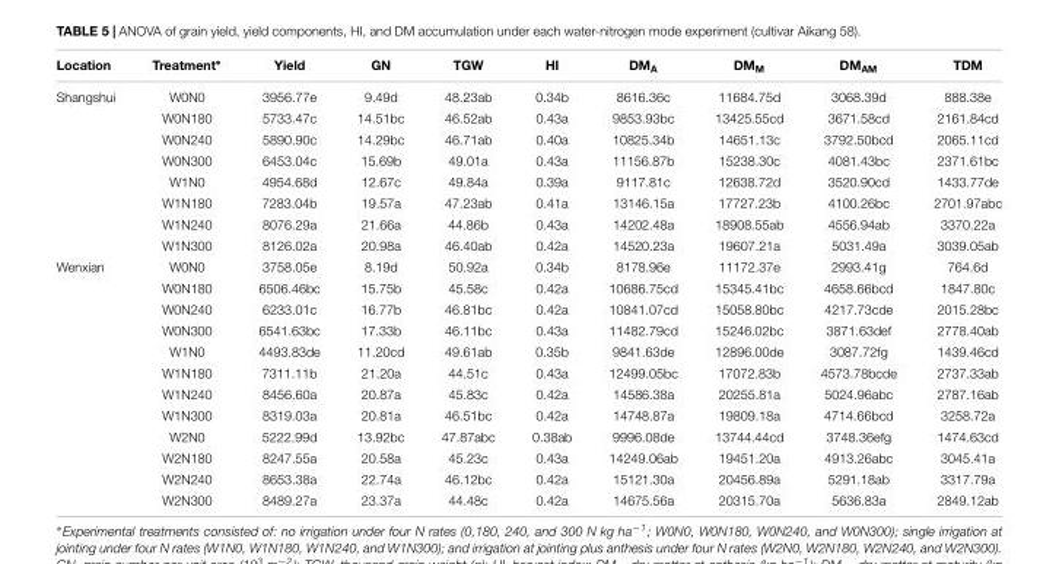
<table><thead><tr><td>Location</td><td>Treatment∗</td><td>Yield</td><td>GN</td><td>TGW</td><td>HI</td><td>DM<sub>A</sub></td><td>DM<sub>M</sub></td><td>DM<sub>AM</sub></td><td>TDM</td></tr></thead><tbody><tr><td rowspan="8">Shangshui</td><td>W0N0</td><td>3956.77e</td><td>9.49d</td><td>48.23ab</td><td>0.34b</td><td>8616.36c</td><td>11684.75d</td><td>3068.39d</td><td>888.38e</td></tr><tr><td>W0N180</td><td>5733.47c</td><td>14.51bc</td><td>46.52ab</td><td>0.43a</td><td>9853.93bc</td><td>13425.55cd</td><td>3671.58cd</td><td>2161.84cd</td></tr><tr><td>W0N240</td><td>5890.90c</td><td>14.29bc</td><td>46.71ab</td><td>0.40a</td><td>10825.34b</td><td>14651.13c</td><td>3792.50bcd</td><td>2065.11cd</td></tr><tr><td>W0N300</td><td>6453.04c</td><td>15.69b</td><td>49.01a</td><td>0.43a</td><td>11156.87b</td><td>15238.30c</td><td>4081.43bc</td><td>2371.61bc</td></tr><tr><td>W1N0</td><td>4954.68d</td><td>12.67c</td><td>49.84a</td><td>0.39a</td><td>9117.81c</td><td>12638.72d</td><td>3520.90cd</td><td>1433.77de</td></tr><tr><td>W1N180</td><td>7283.04b</td><td>19.57a</td><td>47.23ab</td><td>0.41a</td><td>13146.15a</td><td>17727.23b</td><td>4100.26bc</td><td>2701.97abc</td></tr><tr><td>W1N240</td><td>8076.29a</td><td>21.66a</td><td>44.86b</td><td>0.43a</td><td>14202.48a</td><td>18908.55ab</td><td>4556.94ab</td><td>3370.22a</td></tr><tr><td>W1N300</td><td>8126.02a</td><td>20.98a</td><td>46.40ab</td><td>0.42a</td><td>14520.23a</td><td>19607.21a</td><td>5031.49a</td><td>3039.05ab</td></tr><tr><td rowspan="12">Wenxian</td><td>W0N0</td><td>3758.05e</td><td>8.19d</td><td>50.92a</td><td>0.34b</td><td>8178.96e</td><td>11172.37e</td><td>2993.41g</td><td>764.6d</td></tr><tr><td>W0N180</td><td>6506.46bc</td><td>15.75b</td><td>45.58c</td><td>0.42a</td><td>10686.75cd</td><td>15345.41bc</td><td>4658.66bcd</td><td>1847.80c</td></tr><tr><td>W0N240</td><td>6233.01c</td><td>16.77b</td><td>46.81bc</td><td>0.42a</td><td>10841.07cd</td><td>15058.80bc</td><td>4217.73cde</td><td>2015.28bc</td></tr><tr><td>W0N300</td><td>6541.63bc</td><td>17.33b</td><td>46.11bc</td><td>0.43a</td><td>11482.79cd</td><td>15246.02bc</td><td>3871.63def</td><td>2778.40ab</td></tr><tr><td>W1N0</td><td>4493.83de</td><td>11.20cd</td><td>49.61ab</td><td>0.35b</td><td>9841.63de</td><td>12896.00de</td><td>3087.72fg</td><td>1439.46cd</td></tr><tr><td>W1N180</td><td>7311.11b</td><td>21.20a</td><td>44.51c</td><td>0.43a</td><td>12499.05bc</td><td>17072.83b</td><td>4573.78bcde</td><td>2737.33ab</td></tr><tr><td>W1N240</td><td>8456.60a</td><td>20.87a</td><td>45.83c</td><td>0.42a</td><td>14586.38a</td><td>20255.81a</td><td>5024.96abc</td><td>2787.16ab</td></tr><tr><td>W1N300</td><td>8319.03a</td><td>20.81a</td><td>46.51bc</td><td>0.42a</td><td>14748.87a</td><td>19809.18a</td><td>4714.66bcd</td><td>3258.72a</td></tr><tr><td>W2N0</td><td>5222.99d</td><td>13.92bc</td><td>47.87abc</td><td>0.38ab</td><td>9996.08de</td><td>13744.44cd</td><td>3748.36efg</td><td>1474.63cd</td></tr><tr><td>W2N180</td><td>8247.55a</td><td>20.58a</td><td>45.23c</td><td>0.43a</td><td>14249.06ab</td><td>19451.20a</td><td>4913.26abc</td><td>3045.41a</td></tr><tr><td>W2N240</td><td>8653.38a</td><td>22.74a</td><td>46.12bc</td><td>0.42a</td><td>15121.30a</td><td>20456.89a</td><td>5291.18ab</td><td>3317.79a</td></tr><tr><td>W2N300</td><td>8489.27a</td><td>23.37a</td><td>44.48c</td><td>0.42a</td><td>14675.56a</td><td>20315.70a</td><td>5636.83a</td><td>2849.12ab</td></tr></tbody></table>